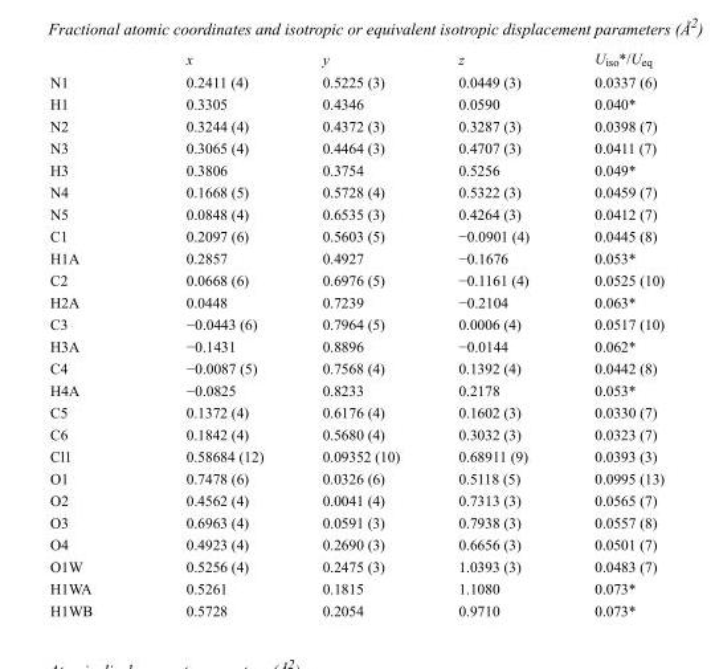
<table><thead><tr><td></td><td>x</td><td>y</td><td>z</td><td>U<sub>iso</sub>*/U<sub>eq</sub></td></tr></thead><tbody><tr><td>N1</td><td>0.2411 (4)</td><td>0.5225 (3)</td><td>0.0449 (3)</td><td>0.0337 (6)</td></tr><tr><td>H1</td><td>0.3305</td><td>0.4346</td><td>0.0590</td><td>0.040*</td></tr><tr><td>N2</td><td>0.3244 (4)</td><td>0.4372 (3)</td><td>0.3287 (3)</td><td>0.0398 (7)</td></tr><tr><td>N3</td><td>0.3065 (4)</td><td>0.4464 (3)</td><td>0.4707 (3)</td><td>0.0411 (7)</td></tr><tr><td>H3</td><td>0.3806</td><td>0.3754</td><td>0.5256</td><td>0.049*</td></tr><tr><td>N4</td><td>0.1668 (5)</td><td>0.5728 (4)</td><td>0.5322 (3)</td><td>0.0459 (7)</td></tr><tr><td>N5</td><td>0.0848 (4)</td><td>0.6535 (3)</td><td>0.4264 (3)</td><td>0.0412 (7)</td></tr><tr><td>C1</td><td>0.2097 (6)</td><td>0.5603 (5)</td><td>−0.0901 (4)</td><td>0.0445 (8)</td></tr><tr><td>H1A</td><td>0.2857</td><td>0.4927</td><td>−0.1676</td><td>0.053*</td></tr><tr><td>C2</td><td>0.0668 (6)</td><td>0.6976 (5)</td><td>−0.1161 (4)</td><td>0.0525 (10)</td></tr><tr><td>H2A</td><td>0.0448</td><td>0.7239</td><td>−0.2104</td><td>0.063*</td></tr><tr><td>C3</td><td>−0.0443 (6)</td><td>0.7964 (5)</td><td>0.0006 (4)</td><td>0.0517 (10)</td></tr><tr><td>H3A</td><td>−0.1431</td><td>0.8896</td><td>−0.0144</td><td>0.062*</td></tr><tr><td>C4</td><td>−0.0087 (5)</td><td>0.7568 (4)</td><td>0.1392 (4)</td><td>0.0442 (8)</td></tr><tr><td>H4A</td><td>−0.0825</td><td>0.8233</td><td>0.2178</td><td>0.053*</td></tr><tr><td>C5</td><td>0.1372 (4)</td><td>0.6176 (4)</td><td>0.1602 (3)</td><td>0.0330 (7)</td></tr><tr><td>C6</td><td>0.1842 (4)</td><td>0.5680 (4)</td><td>0.3032 (3)</td><td>0.0323 (7)</td></tr><tr><td>Cl1</td><td>0.58684 (12)</td><td>0.09352 (10)</td><td>0.68911 (9)</td><td>0.0393 (3)</td></tr><tr><td>O1</td><td>0.7478 (6)</td><td>0.0326 (6)</td><td>0.5118 (5)</td><td>0.0995 (13)</td></tr><tr><td>O2</td><td>0.4562 (4)</td><td>0.0041 (4)</td><td>0.7313 (3)</td><td>0.0565 (7)</td></tr><tr><td>O3</td><td>0.6963 (4)</td><td>0.0591 (3)</td><td>0.7938 (3)</td><td>0.0557 (8)</td></tr><tr><td>O4</td><td>0.4923 (4)</td><td>0.2690 (3)</td><td>0.6656 (3)</td><td>0.0501 (7)</td></tr><tr><td>O1W</td><td>0.5256 (4)</td><td>0.2475 (3)</td><td>1.0393 (3)</td><td>0.0483 (7)</td></tr><tr><td>H1WA</td><td>0.5261</td><td>0.1815</td><td>1.1080</td><td>0.073*</td></tr><tr><td>H1WB</td><td>0.5728</td><td>0.2054</td><td>0.9710</td><td>0.073*</td></tr></tbody></table>